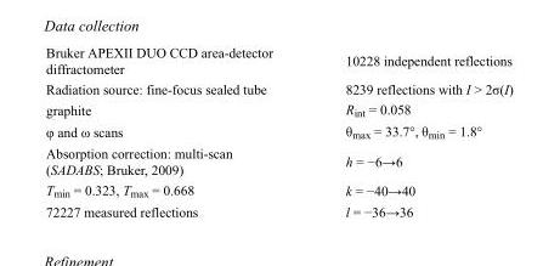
<table><tbody><tr><td>Bruker APEXII DUO CCD area-detector diffractometer</td><td>10228 independent reflections</td></tr><tr><td>Radiation source: fine-focus sealed tube</td><td>8239 reflections with I &gt; 2σ(I)</td></tr><tr><td>graphite</td><td>R<sub>int</sub> = 0.058</td></tr><tr><td>φ and ω scans</td><td>θ<sub>max</sub> = 33.7°, θ<sub>min</sub> = 1.8°</td></tr><tr><td>Absorption correction: multi-scan (SADABS; Bruker, 2009)</td><td>h = −6→6</td></tr><tr><td>T<sub>min</sub> = 0.323, T<sub>max</sub> = 0.668</td><td>k = −40→40</td></tr><tr><td>72227 measured reflections</td><td>l = −36→36</td></tr></tbody></table>